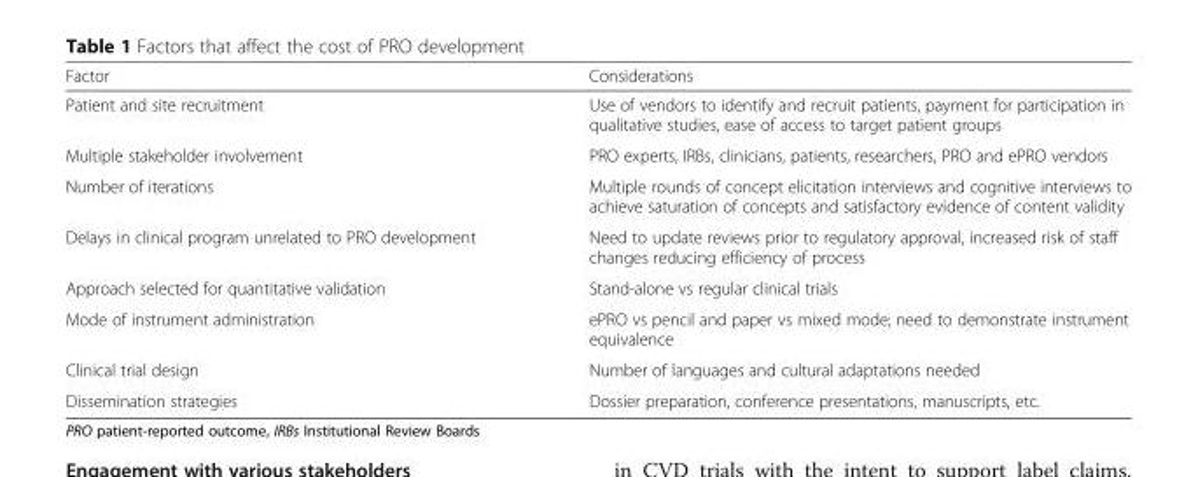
<table><thead><tr><td>Factor</td><td>Considerations</td></tr></thead><tbody><tr><td>Patient and site recruitment</td><td>Use of vendors to identify and recruit patients, payment for participation in qualitative studies, ease of access to target patient groups</td></tr><tr><td>Multiple stakeholder involvement</td><td>PRO experts, IRBs, clinicians, patients, researchers, PRO and ePRO vendors</td></tr><tr><td>Number of iterations</td><td>Multiple rounds of concept elicitation interviews and cognitive interviews to achieve saturation of concepts and satisfactory evidence of content validity</td></tr><tr><td>Delays in clinical program unrelated to PRO development</td><td>Need to update reviews prior to regulatory approval, increased risk of staff changes reducing efficiency of process</td></tr><tr><td>Approach selected for quantitative validation</td><td>Stand-alone vs regular clinical trials</td></tr><tr><td>Mode of instrument administration</td><td>ePRO vs pencil and paper vs mixed mode; need to demonstrate instrument equivalence</td></tr><tr><td>Clinical trial design</td><td>Number of languages and cultural adaptations needed</td></tr><tr><td>Dissemination strategies</td><td>Dossier preparation, conference presentations, manuscripts, etc.</td></tr></tbody></table>